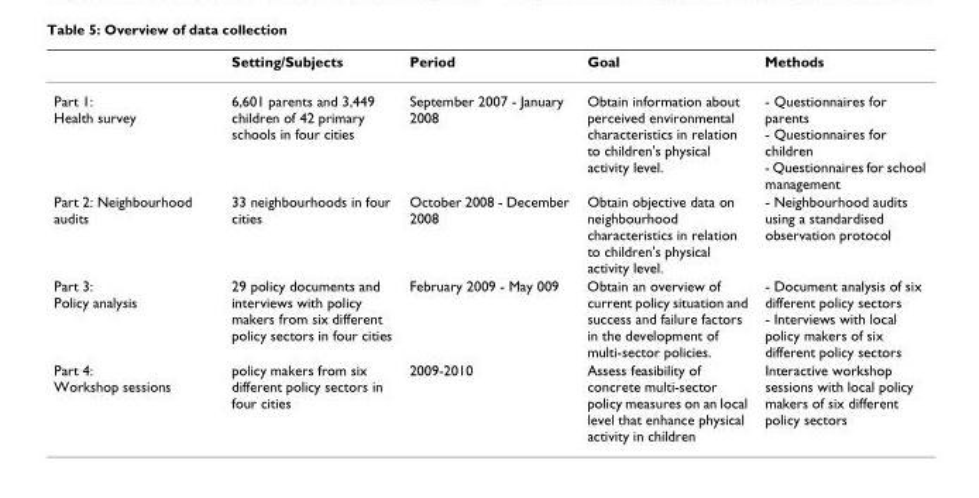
<table><thead><tr><td></td><td>Setting/Subjects</td><td>Period</td><td>Goal</td><td>Methods</td></tr></thead><tbody><tr><td>Part 1: Health survey</td><td>6,601 parents and 3,449 children of 42 primary schools in four cities</td><td>September 2007 - January 2008</td><td>Obtain information about perceived environmental characteristics in relation to children&#x27;s physical activity level.</td><td>- Questionnaires for parents - Questionnaires for children - Questionnaires for school management</td></tr><tr><td>Part 2: Neighbourhood audits</td><td>33 neighbourhoods in four cities</td><td>October 2008 - December 2008</td><td>Obtain objective data on neighbourhood characteristics in relation to children&#x27;s physical activity level.</td><td>- Neighbourhood audits using a standardised observation protocol</td></tr><tr><td>Part 3: Policy analysis</td><td>29 policy documents and interviews with policy makers from six different policy sectors in four cities</td><td>February 2009 - May 009</td><td>Obtain an overview of current policy situation and success and failure factors in the development of multi-sector policies.</td><td>- Document analysis of six different policy sectors - Interviews with local policy makers of six different policy sectors</td></tr><tr><td>Part 4: Workshop sessions</td><td>policy makers from six different policy sectors in four cities</td><td>2009-2010</td><td>Assess feasibility of concrete multi-sector policy measures on an local level that enhance physical activity in children</td><td>Interactive workshop sessions with local policy makers of six different policy sectors</td></tr></tbody></table>